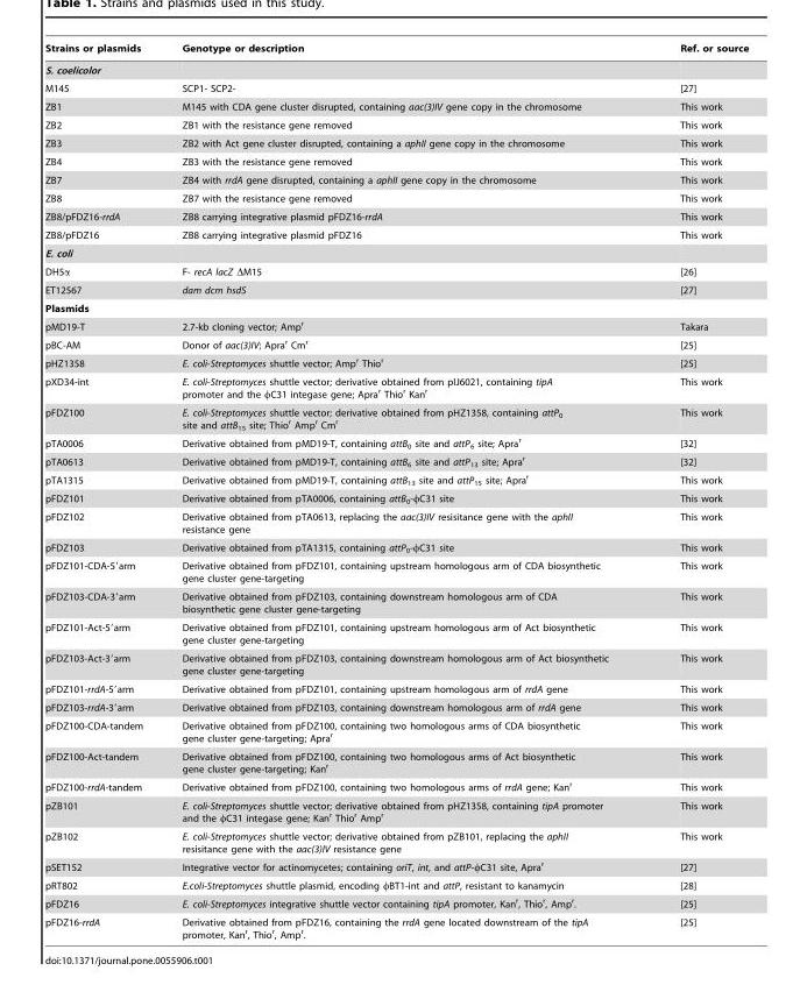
<table><thead><tr><td>Strains or plasmids</td><td>Genotype or description</td><td>Ref. or source</td></tr></thead><tbody><tr><td colspan="3">S. coelicolor</td></tr><tr><td>M145</td><td>SCP1- SCP2-</td><td>[27]</td></tr><tr><td>ZB1</td><td>M145 with CDA gene cluster disrupted, containing aac(3)IV gene copy in the chromosome</td><td>This work</td></tr><tr><td>ZB2</td><td>ZB1 with the resistance gene removed</td><td>This work</td></tr><tr><td>ZB3</td><td>ZB2 with Act gene cluster disrupted, containing a aphII gene copy in the chromosome</td><td>This work</td></tr><tr><td>ZB4</td><td>ZB3 with the resistance gene removed</td><td>This work</td></tr><tr><td>ZB7</td><td>ZB4 with rrdA gene disrupted, containing a aphII gene copy in the chromosome</td><td>This work</td></tr><tr><td>ZB8</td><td>ZB7 with the resistance gene removed</td><td>This work</td></tr><tr><td>ZB8/pFDZ16-rrdA</td><td>ZB8 carrying integrative plasmid pFDZ16-rrdA</td><td>This work</td></tr><tr><td>ZB8/pFDZ16</td><td>ZB8 carrying integrative plasmid pFDZ16</td><td>This work</td></tr><tr><td colspan="3">E. coli</td></tr><tr><td>DH5α</td><td>F- recA lacZ ΔM15</td><td>[26]</td></tr><tr><td>ET12567</td><td>dam dcm hsdS</td><td>[27]</td></tr><tr><td colspan="3">Plasmids</td></tr><tr><td>pMD19-T</td><td>2.7-kb cloning vector; Amp<sup>r</sup></td><td>Takara</td></tr><tr><td>pBC-AM</td><td>Donor of aac(3)IV; Apra<sup>r</sup> Cm<sup>r</sup></td><td>[25]</td></tr><tr><td>pHZ1358</td><td>E. coli-Streptomyces shuttle vector; Amp<sup>r</sup> Thio<sup>r</sup></td><td>[25]</td></tr><tr><td>pXD34-int</td><td>E. coli-Streptomyces shuttle vector; derivative obtained from pIJ6021, containing tipA promoter and the φC31 integase gene; Apra<sup>r</sup> Thio<sup>r</sup> Kan<sup>r</sup></td><td>This work</td></tr><tr><td>pFDZ100</td><td>E. coli-Streptomyces shuttle vector; derivative obtained from pHZ1358, containing attP<sub>0</sub> site and attB<sub>15</sub> site; Thio<sup>r</sup> Amp<sup>r</sup> Cm<sup>r</sup></td><td>This work</td></tr><tr><td>pTA0006</td><td>Derivative obtained from pMD19-T, containing attB<sub>0</sub> site and attP<sub>6</sub> site; Apra<sup>r</sup></td><td>[32]</td></tr><tr><td>pTA0613</td><td>Derivative obtained from pMD19-T, containing attB<sub>6</sub> site and attP<sub>13</sub> site; Apra<sup>r</sup></td><td>[32]</td></tr><tr><td>pTA1315</td><td>Derivative obtained from pMD19-T, containing attB<sub>13</sub> site and attP<sub>15</sub> site; Apra<sup>r</sup></td><td>This work</td></tr><tr><td>pFDZ101</td><td>Derivative obtained from pTA0006, containing attB<sub>0</sub>-φC31 site</td><td>This work</td></tr><tr><td>pFDZ102</td><td>Derivative obtained from pTA0613, replacing the aac(3)IV resisitance gene with the aphII resistance gene</td><td>This work</td></tr><tr><td>pFDZ103</td><td>Derivative obtained from pTA1315, containing attP<sub>0</sub>-φC31 site</td><td>This work</td></tr><tr><td>pFDZ101-CDA-5′arm</td><td>Derivative obtained from pFDZ101, containing upstream homologous arm of CDA biosynthetic gene cluster gene-targeting</td><td>This work</td></tr><tr><td>pFDZ103-CDA-3′arm</td><td>Derivative obtained from pFDZ103, containing downstream homologous arm of CDA biosynthetic gene cluster gene-targeting</td><td>This work</td></tr><tr><td>pFDZ101-Act-5′arm</td><td>Derivative obtained from pFDZ101, containing upstream homologous arm of Act biosynthetic gene cluster gene-targeting</td><td>This work</td></tr><tr><td>pFDZ103-Act-3′arm</td><td>Derivative obtained from pFDZ103, containing downstream homologous arm of Act biosynthetic gene cluster gene-targeting</td><td>This work</td></tr><tr><td>pFDZ101-rrdA-5′arm</td><td>Derivative obtained from pFDZ101, containing upstream homologous arm of rrdA gene</td><td>This work</td></tr><tr><td>pFDZ103-rrdA-3′arm</td><td>Derivative obtained from pFDZ103, containing downstream homologous arm of rrdA gene</td><td>This work</td></tr><tr><td>pFDZ100-CDA-tandem</td><td>Derivative obtained from pFDZ100, containing two homologous arms of CDA biosynthetic gene cluster gene-targeting; Apra<sup>r</sup></td><td>This work</td></tr><tr><td>pFDZ100-Act-tandem</td><td>Derivative obtained from pFDZ100, containing two homologous arms of Act biosynthetic gene cluster gene-targeting; Kan<sup>r</sup></td><td>This work</td></tr><tr><td>pFDZ100-rrdA-tandem</td><td>Derivative obtained from pFDZ100, containing two homologous arms of rrdA gene; Kan<sup>r</sup></td><td>This work</td></tr><tr><td>pZB101</td><td>E. coli-Streptomyces shuttle vector; derivative obtained from pHZ1358, containing tipA promoter and the φC31 integase gene; Kan<sup>r</sup> Thio<sup>r</sup> Amp<sup>r</sup></td><td>This work</td></tr><tr><td>pZB102</td><td>E. coli-Streptomyces shuttle vector; derivative obtained from pZB101, replacing the aphII resisitance gene with the aac(3)IV resistance gene</td><td>This work</td></tr><tr><td>pSET152</td><td>Integrative vector for actinomycetes; containing oriT, int, and attP-φC31 site, Apra<sup>r</sup></td><td>[27]</td></tr><tr><td>pRT802</td><td>E.coli-Streptomyces shuttle plasmid, encoding φBT1-int and attP, resistant to kanamycin</td><td>[28]</td></tr><tr><td>pFDZ16</td><td>E. coli-Streptomyces integrative shuttle vector containing tipA promoter, Kan<sup>r</sup>, Thio<sup>r</sup>, Amp<sup>r</sup>.</td><td>[25]</td></tr><tr><td>pFDZ16-rrdA</td><td>Derivative obtained from pFDZ16, containing the rrdA gene located downstream of the tipA promoter, Kan<sup>r</sup>, Thio<sup>r</sup>, Amp<sup>r</sup>.</td><td>[25]</td></tr></tbody></table>